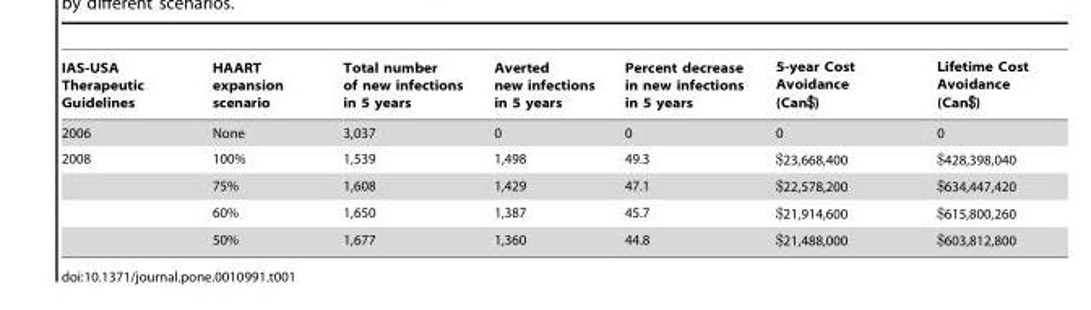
<table><thead><tr><td>IAS-USA Therapeutic Guidelines</td><td>HAART expansion scenario</td><td>Total number of new infections in 5 years</td><td>Averted new infections in 5 years</td><td>Percent decrease in new infections in 5 years</td><td>5-year Cost Avoidance (Can$)</td><td>Lifetime Cost Avoidance (Can$)</td></tr></thead><tbody><tr><td>2006</td><td>None</td><td>3,037</td><td>0</td><td>0</td><td>0</td><td>0</td></tr><tr><td rowspan="4">2008</td><td>100%</td><td>1,539</td><td>1,498</td><td>49.3</td><td>$23,668,400</td><td>$428,398,040</td></tr><tr><td>75%</td><td>1,608</td><td>1,429</td><td>47.1</td><td>$22,578,200</td><td>$634,447,420</td></tr><tr><td>60%</td><td>1,650</td><td>1,387</td><td>45.7</td><td>$21,914,600</td><td>$615,800,260</td></tr><tr><td>50%</td><td>1,677</td><td>1,360</td><td>44.8</td><td>$21,488,000</td><td>$603,812,800</td></tr></tbody></table>